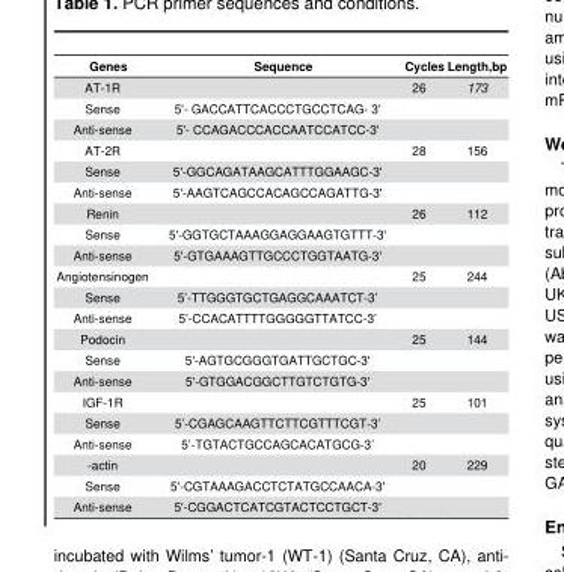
<table><thead><tr><td>Genes</td><td>Sequence</td><td>Cycles</td><td>Length,bp</td></tr></thead><tbody><tr><td>AT-1R</td><td></td><td>26</td><td>173</td></tr><tr><td>Sense</td><td>5&#x27;- GACCATTCACCCTGCCTCAG- 3&#x27;</td><td></td><td></td></tr><tr><td>Anti-sense</td><td>5&#x27;- CCAGACCCACCAATCCATCC-3&#x27;</td><td></td><td></td></tr><tr><td>AT-2R</td><td></td><td>28</td><td>156</td></tr><tr><td>Sense</td><td>5&#x27;-GGCAGATAAGCATTTGGAAGC-3&#x27;</td><td></td><td></td></tr><tr><td>Anti-sense</td><td>5&#x27;-AAGTCAGCCACAGCCAGATTG-3&#x27;</td><td></td><td></td></tr><tr><td>Renin</td><td></td><td>26</td><td>112</td></tr><tr><td>Sense</td><td>5&#x27;-GGTGCTAAAGGAGGAAGTGTTT-3&#x27;</td><td></td><td></td></tr><tr><td>Anti-sense</td><td>5&#x27;-GTGAAAGTTGCCCTGGTAATG-3&#x27;</td><td></td><td></td></tr><tr><td>Angiotensinogen</td><td></td><td>25</td><td>244</td></tr><tr><td>Sense</td><td>5’-TTGGGTGCTGAGGCAAATCT-3’</td><td></td><td></td></tr><tr><td>Anti-sense</td><td>5’-CCACATTTTGGGGGTTATCC-3’</td><td></td><td></td></tr><tr><td>Podocin</td><td></td><td>25</td><td>144</td></tr><tr><td>Sense</td><td>5&#x27;-AGTGCGGGTGATTGCTGC-3&#x27;</td><td></td><td></td></tr><tr><td>Anti-sense</td><td>5&#x27;-GTGGACGGCTTGTCTGTG-3&#x27;</td><td></td><td></td></tr><tr><td>IGF-1R</td><td></td><td>25</td><td>101</td></tr><tr><td>Sense</td><td>5’-CGAGCAAGTTCTTCGTTTCGT-3’</td><td></td><td></td></tr><tr><td>Anti-sense</td><td>5’-TGTACTGCCAGCACATGCG-3’</td><td></td><td></td></tr><tr><td>β-actin</td><td></td><td>20</td><td>229</td></tr><tr><td>Sense</td><td>5&#x27;-CGTAAAGACCTCTATGCCAACA-3&#x27;</td><td></td><td></td></tr><tr><td>Anti-sense</td><td>5&#x27;-CGGACTCATCGTACTCCTGCT-3&#x27;</td><td></td><td></td></tr></tbody></table>